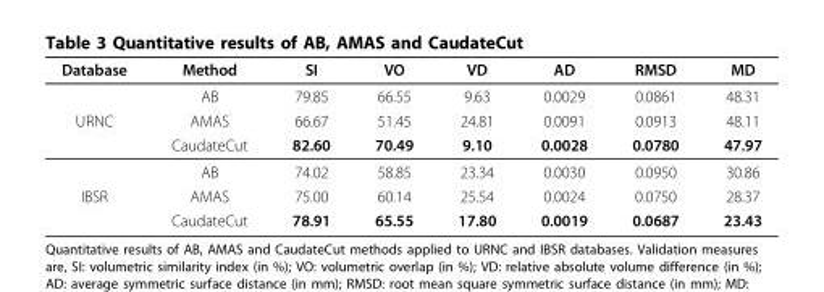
<table><thead><tr><td>Database</td><td>Method</td><td>SI</td><td>VO</td><td>VD</td><td>AD</td><td>RMSD</td><td>MD</td></tr></thead><tbody><tr><td></td><td>AB</td><td>79.85</td><td>66.55</td><td>9.63</td><td>0.0029</td><td>0.0861</td><td>48.31</td></tr><tr><td rowspan="3">URNC</td><td>AMAS</td><td>66.67</td><td>51.45</td><td>24.81</td><td>0.0091</td><td>0.0913</td><td>48.11</td></tr><tr><td>CaudateCut</td><td>82.60</td><td>70.49</td><td>9.10</td><td>0.0028</td><td>0.0780</td><td>47.97</td></tr><tr><td>AB</td><td>74.02</td><td>58.85</td><td>23.34</td><td>0.0030</td><td>0.0950</td><td>30.86</td></tr><tr><td rowspan="2">IBSR</td><td>AMAS</td><td>75.00</td><td>60.14</td><td>25.54</td><td>0.0024</td><td>0.0750</td><td>28.37</td></tr><tr><td>CaudateCut</td><td>78.91</td><td>65.55</td><td>17.80</td><td>0.0019</td><td>0.0687</td><td>23.43</td></tr></tbody></table>